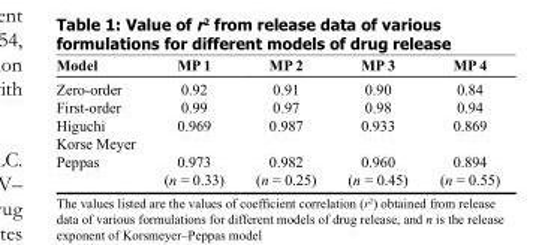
<table><thead><tr><td>Model</td><td>MP 1</td><td>MP 2</td><td>MP 3</td><td>MP 4</td></tr></thead><tbody><tr><td>Zero-order</td><td>0.92</td><td>0.91</td><td>0.90</td><td>0.84</td></tr><tr><td>First-order</td><td>0.99</td><td>0.97</td><td>0.98</td><td>0.94</td></tr><tr><td>Higuchi Korse Meyer</td><td>0.969</td><td>0.987</td><td>0.933</td><td>0.869</td></tr><tr><td>Peppas</td><td>0.973 (n = 0.33)</td><td>0.982 (n = 0.25)</td><td>0.960 (n = 0.45)</td><td>0.894 (n = 0.55)</td></tr></tbody></table>